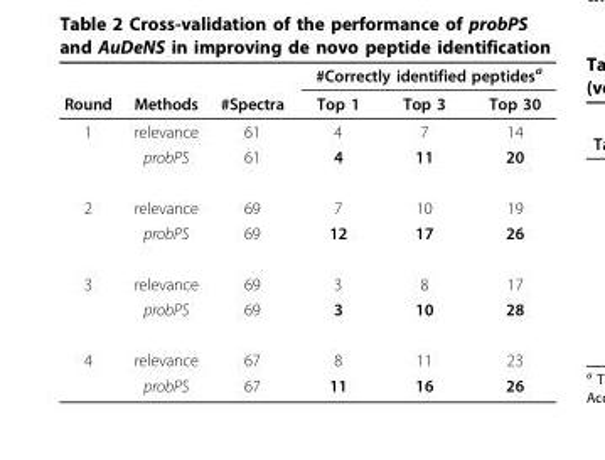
<table><thead><tr><td rowspan="2">Round</td><td rowspan="2">Methods</td><td rowspan="2">#Spectra</td><td colspan="3">#Correctly identified peptides<sup>a</sup></td></tr><tr><td>Top 1</td><td>Top 3</td><td>Top 30</td></tr></thead><tbody><tr><td rowspan="2">1</td><td>relevance</td><td>61</td><td>4</td><td>7</td><td>14</td></tr><tr><td>probPS</td><td>61</td><td>4</td><td>11</td><td>20</td></tr><tr><td rowspan="2">2</td><td>relevance</td><td>69</td><td>7</td><td>10</td><td>19</td></tr><tr><td>probPS</td><td>69</td><td>12</td><td>17</td><td>26</td></tr><tr><td rowspan="2">3</td><td>relevance</td><td>69</td><td>3</td><td>8</td><td>17</td></tr><tr><td>probPS</td><td>69</td><td>3</td><td>10</td><td>28</td></tr><tr><td rowspan="2">4</td><td>relevance</td><td>67</td><td>8</td><td>11</td><td>23</td></tr><tr><td>probPS</td><td>67</td><td>11</td><td>16</td><td>26</td></tr></tbody></table>